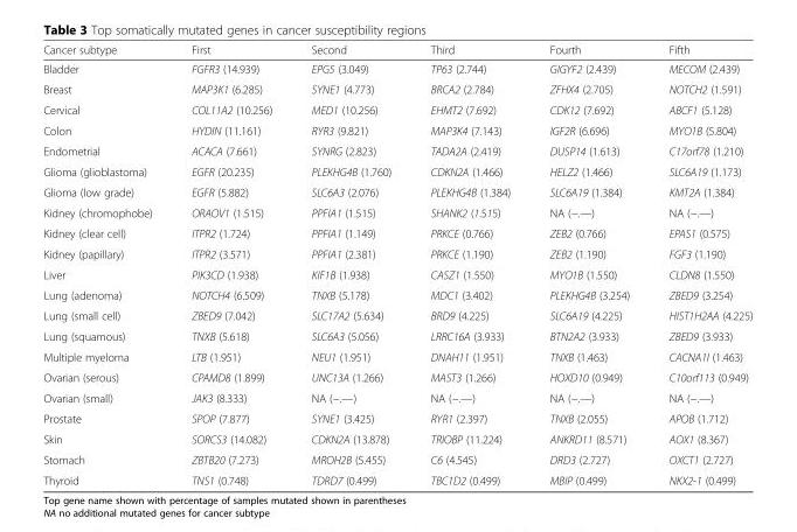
<table><thead><tr><td>Cancer subtype</td><td>First</td><td>Second</td><td>Third</td><td>Fourth</td><td>Fifth</td></tr></thead><tbody><tr><td>Bladder</td><td>FGFR3 (14.939)</td><td>EPG5 (3.049)</td><td>TP63 (2.744)</td><td>GIGYF2 (2.439)</td><td>MECOM (2.439)</td></tr><tr><td>Breast</td><td>MAP3K1 (6.285)</td><td>SYNE1 (4.773)</td><td>BRCA2 (2.784)</td><td>ZFHX4 (2.705)</td><td>NOTCH2 (1.591)</td></tr><tr><td>Cervical</td><td>COL11A2 (10.256)</td><td>MED1 (10.256)</td><td>EHMT2 (7.692)</td><td>CDK12 (7.692)</td><td>ABCF1 (5.128)</td></tr><tr><td>Colon</td><td>HYDIN (11.161)</td><td>RYR3 (9.821)</td><td>MAP3K4 (7.143)</td><td>IGF2R (6.696)</td><td>MYO1B (5.804)</td></tr><tr><td>Endometrial</td><td>ACACA (7.661)</td><td>SYNRG (2.823)</td><td>TADA2A (2.419)</td><td>DUSP14 (1.613)</td><td>C17orf78 (1.210)</td></tr><tr><td>Glioma (glioblastoma)</td><td>EGFR (20.235)</td><td>PLEKHG4B (1.760)</td><td>CDKN2A (1.466)</td><td>HELZ2 (1.466)</td><td>SLC6A19 (1.173)</td></tr><tr><td>Glioma (low grade)</td><td>EGFR (5.882)</td><td>SLC6A3 (2.076)</td><td>PLEKHG4B (1.384)</td><td>SLC6A19 (1.384)</td><td>KMT2A (1.384)</td></tr><tr><td>Kidney (chromophobe)</td><td>ORAOV1 (1.515)</td><td>PPFIA1 (1.515)</td><td>SHANK2 (1.515)</td><td>NA (−.—)</td><td>NA (−.—)</td></tr><tr><td>Kidney (clear cell)</td><td>ITPR2 (1.724)</td><td>PPFIA1 (1.149)</td><td>PRKCE (0.766)</td><td>ZEB2 (0.766)</td><td>EPAS1 (0.575)</td></tr><tr><td>Kidney (papillary)</td><td>ITPR2 (3.571)</td><td>PPFIA1 (2.381)</td><td>PRKCE (1.190)</td><td>ZEB2 (1.190)</td><td>FGF3 (1.190)</td></tr><tr><td>Liver</td><td>PIK3CD (1.938)</td><td>KIF1B (1.938)</td><td>CASZ1 (1.550)</td><td>MYO1B (1.550)</td><td>CLDN8 (1.550)</td></tr><tr><td>Lung (adenoma)</td><td>NOTCH4 (6.509)</td><td>TNXB (5.178)</td><td>MDC1 (3.402)</td><td>PLEKHG4B (3.254)</td><td>ZBED9 (3.254)</td></tr><tr><td>Lung (small cell)</td><td>ZBED9 (7.042)</td><td>SLC17A2 (5.634)</td><td>BRD9 (4.225)</td><td>SLC6A19 (4.225)</td><td>HIST1H2AA (4.225)</td></tr><tr><td>Lung (squamous)</td><td>TNXB (5.618)</td><td>SLC6A3 (5.056)</td><td>LRRC16A (3.933)</td><td>BTN2A2 (3.933)</td><td>ZBED9 (3.933)</td></tr><tr><td>Multiple myeloma</td><td>LTB (1.951)</td><td>NEU1 (1.951)</td><td>DNAH11 (1.951)</td><td>TNXB (1.463)</td><td>CACNA1I (1.463)</td></tr><tr><td>Ovarian (serous)</td><td>CPAMD8 (1.899)</td><td>UNC13A (1.266)</td><td>MAST3 (1.266)</td><td>HOXD10 (0.949)</td><td>C10orf113 (0.949)</td></tr><tr><td>Ovarian (small)</td><td>JAK3 (8.333)</td><td>NA (−.—)</td><td>NA (−.—)</td><td>NA (−.—)</td><td>NA (−.—)</td></tr><tr><td>Prostate</td><td>SPOP (7.877)</td><td>SYNE1 (3.425)</td><td>RYR1 (2.397)</td><td>TNXB (2.055)</td><td>APOB (1.712)</td></tr><tr><td>Skin</td><td>SORCS3 (14.082)</td><td>CDKN2A (13.878)</td><td>TRIOBP (11.224)</td><td>ANKRD11 (8.571)</td><td>AOX1 (8.367)</td></tr><tr><td>Stomach</td><td>ZBTB20 (7.273)</td><td>MROH2B (5.455)</td><td>C6 (4.545)</td><td>DRD3 (2.727)</td><td>OXCT1 (2.727)</td></tr><tr><td>Thyroid</td><td>TNS1 (0.748)</td><td>TDRD7 (0.499)</td><td>TBC1D2 (0.499)</td><td>MBIP (0.499)</td><td>NKX2-1 (0.499)</td></tr></tbody></table>